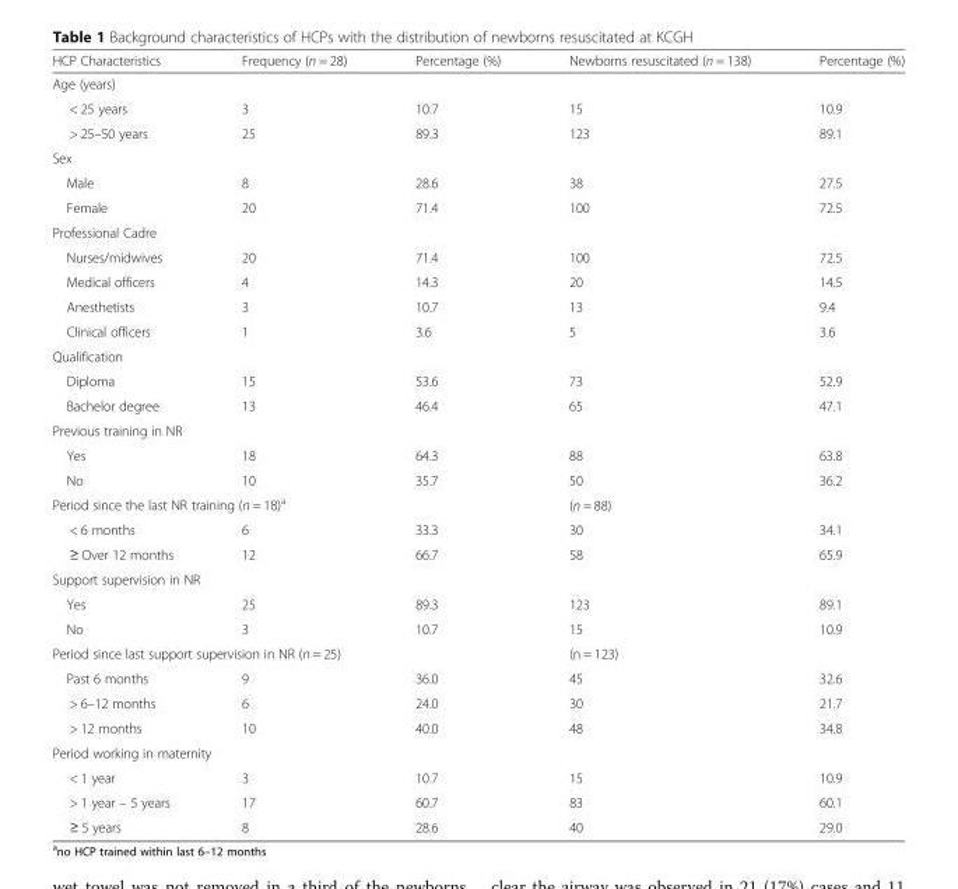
<table><thead><tr><td>HCP Characteristics</td><td>Frequency (n = 28)</td><td>Percentage (%)</td><td>Newborns resuscitated (n = 138)</td><td>Percentage (%)</td></tr></thead><tbody><tr><td colspan="5">Age (years)</td></tr><tr><td>&lt; 25 years</td><td>3</td><td>10.7</td><td>15</td><td>10.9</td></tr><tr><td>&gt; 25–50 years</td><td>25</td><td>89.3</td><td>123</td><td>89.1</td></tr><tr><td colspan="5">Sex</td></tr><tr><td>Male</td><td>8</td><td>28.6</td><td>38</td><td>27.5</td></tr><tr><td>Female</td><td>20</td><td>71.4</td><td>100</td><td>72.5</td></tr><tr><td colspan="5">Professional Cadre</td></tr><tr><td>Nurses/midwives</td><td>20</td><td>71.4</td><td>100</td><td>72.5</td></tr><tr><td>Medical officers</td><td>4</td><td>14.3</td><td>20</td><td>14.5</td></tr><tr><td>Anesthetists</td><td>3</td><td>10.7</td><td>13</td><td>9.4</td></tr><tr><td>Clinical officers</td><td>1</td><td>3.6</td><td>5</td><td>3.6</td></tr><tr><td colspan="5">Qualification</td></tr><tr><td>Diploma</td><td>15</td><td>53.6</td><td>73</td><td>52.9</td></tr><tr><td>Bachelor degree</td><td>13</td><td>46.4</td><td>65</td><td>47.1</td></tr><tr><td colspan="5">Previous training in NR</td></tr><tr><td>Yes</td><td>18</td><td>64.3</td><td>88</td><td>63.8</td></tr><tr><td>No</td><td>10</td><td>35.7</td><td>50</td><td>36.2</td></tr><tr><td colspan="3">Period since the last NR training (n = 18)<sup>a</sup></td><td>(n = 88)</td><td></td></tr><tr><td>&lt; 6 months</td><td>6</td><td>33.3</td><td>30</td><td>34.1</td></tr><tr><td>≥ Over 12 months</td><td>12</td><td>66.7</td><td>58</td><td>65.9</td></tr><tr><td colspan="5">Support supervision in NR</td></tr><tr><td>Yes</td><td>25</td><td>89.3</td><td>123</td><td>89.1</td></tr><tr><td>No</td><td>3</td><td>10.7</td><td>15</td><td>10.9</td></tr><tr><td colspan="3">Period since last support supervision in NR (n = 25)</td><td>(n = 123)</td><td></td></tr><tr><td>Past 6 months</td><td>9</td><td>36.0</td><td>45</td><td>32.6</td></tr><tr><td>&gt; 6–12 months</td><td>6</td><td>24.0</td><td>30</td><td>21.7</td></tr><tr><td>&gt; 12 months</td><td>10</td><td>40.0</td><td>48</td><td>34.8</td></tr><tr><td colspan="5">Period working in maternity</td></tr><tr><td>&lt; 1 year</td><td>3</td><td>10.7</td><td>15</td><td>10.9</td></tr><tr><td>&gt; 1 year – 5 years</td><td>17</td><td>60.7</td><td>83</td><td>60.1</td></tr><tr><td>≥ 5 years</td><td>8</td><td>28.6</td><td>40</td><td>29.0</td></tr></tbody></table>